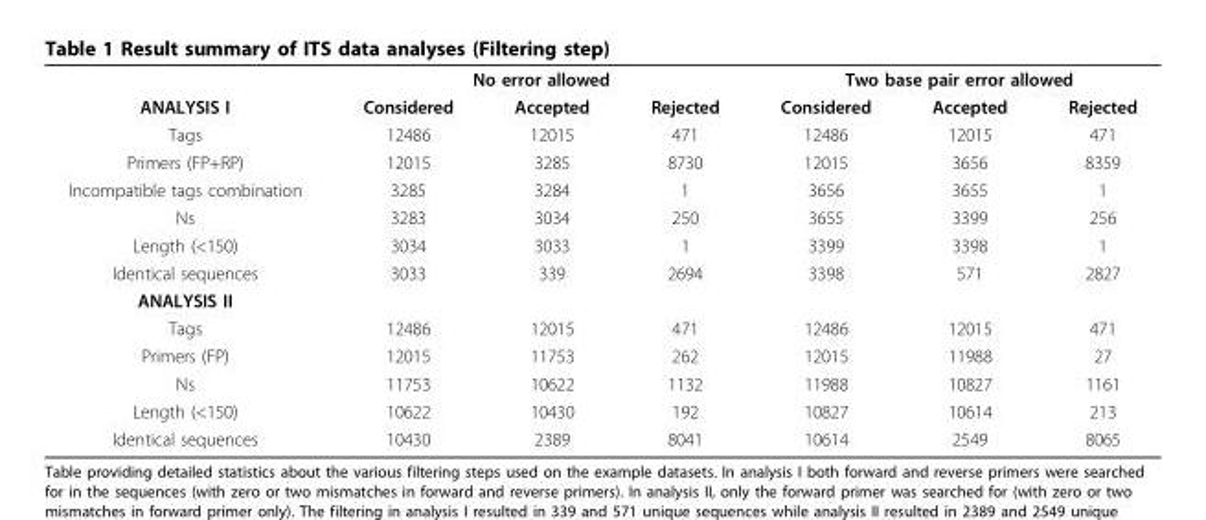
<table><thead><tr><td rowspan="2">ANALYSIS I</td><td colspan="3">No error allowed</td><td colspan="3">Two base pair error allowed</td></tr><tr><td>Considered</td><td>Accepted</td><td>Rejected</td><td>Considered</td><td>Accepted</td><td>Rejected</td></tr></thead><tbody><tr><td>Tags</td><td>12486</td><td>12015</td><td>471</td><td>12486</td><td>12015</td><td>471</td></tr><tr><td>Primers (FP+RP)</td><td>12015</td><td>3285</td><td>8730</td><td>12015</td><td>3656</td><td>8359</td></tr><tr><td>Incompatible tags combination</td><td>3285</td><td>3284</td><td>1</td><td>3656</td><td>3655</td><td>1</td></tr><tr><td>Ns</td><td>3283</td><td>3034</td><td>250</td><td>3655</td><td>3399</td><td>256</td></tr><tr><td>Length (&lt;150)</td><td>3034</td><td>3033</td><td>1</td><td>3399</td><td>3398</td><td>1</td></tr><tr><td>Identical sequences</td><td>3033</td><td>339</td><td>2694</td><td>3398</td><td>571</td><td>2827</td></tr><tr><td colspan="7">ANALYSIS II</td></tr><tr><td>Tags</td><td>12486</td><td>12015</td><td>471</td><td>12486</td><td>12015</td><td>471</td></tr><tr><td>Primers (FP)</td><td>12015</td><td>11753</td><td>262</td><td>12015</td><td>11988</td><td>27</td></tr><tr><td>Ns</td><td>11753</td><td>10622</td><td>1132</td><td>11988</td><td>10827</td><td>1161</td></tr><tr><td>Length (&lt;150)</td><td>10622</td><td>10430</td><td>192</td><td>10827</td><td>10614</td><td>213</td></tr><tr><td>Identical sequences</td><td>10430</td><td>2389</td><td>8041</td><td>10614</td><td>2549</td><td>8065</td></tr></tbody></table>